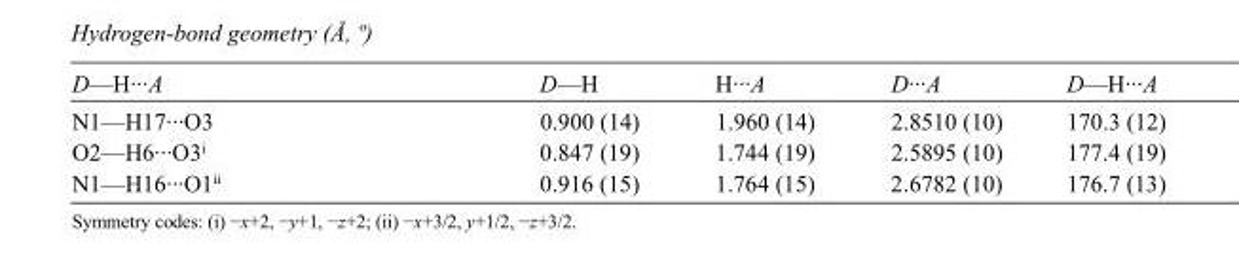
<table><tbody><tr><td>D—H···A</td><td>D—H</td><td>H···A</td><td>D···A</td><td>D—H···A</td></tr><tr><td>N1—H17···O3</td><td>0.900 (14)</td><td>1.960 (14)</td><td>2.8510 (10)</td><td>170.3 (12)</td></tr><tr><td>O2—H6···O3<sup>i</sup></td><td>0.847 (19)</td><td>1.744 (19)</td><td>2.5895 (10)</td><td>177.4 (19)</td></tr><tr><td>N1—H16···O1<sup>ii</sup></td><td>0.916 (15)</td><td>1.764 (15)</td><td>2.6782 (10)</td><td>176.7 (13)</td></tr></tbody></table>